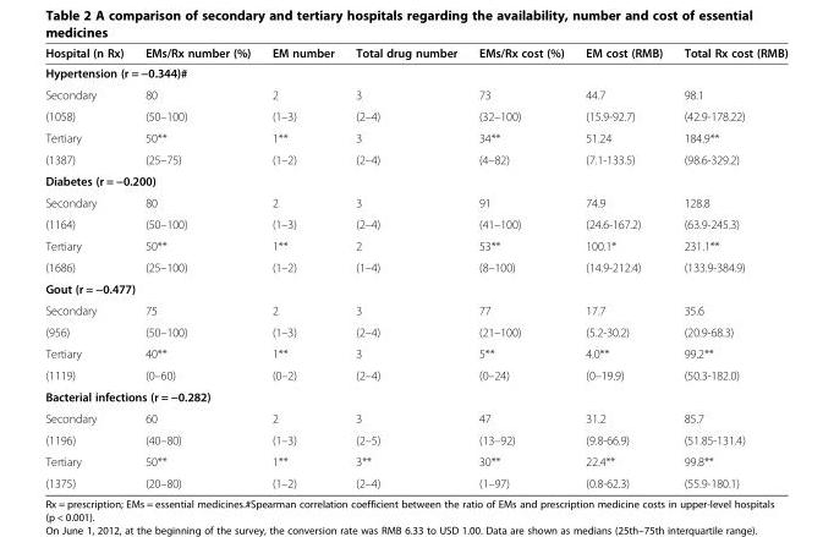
<table><thead><tr><td>Hospital (n Rx)</td><td>EMs/Rx number (%)</td><td>EM number</td><td>Total drug number</td><td>EMs/Rx cost (%)</td><td>EM cost (RMB)</td><td>Total Rx cost (RMB)</td></tr></thead><tbody><tr><td colspan="7">Hypertension (r = −0.344)#</td></tr><tr><td>Secondary</td><td>80</td><td>2</td><td>3</td><td>73</td><td>44.7</td><td>98.1</td></tr><tr><td>(1058)</td><td>(50–100)</td><td>(1–3)</td><td>(2–4)</td><td>(32–100)</td><td>(15.9-92.7)</td><td>(42.9-178.22)</td></tr><tr><td>Tertiary</td><td>50**</td><td>1**</td><td>3</td><td>34**</td><td>51.24</td><td>184.9**</td></tr><tr><td>(1387)</td><td>(25–75)</td><td>(1–2)</td><td>(2–4)</td><td>(4–82)</td><td>(7.1-133.5)</td><td>(98.6-329.2)</td></tr><tr><td colspan="7">Diabetes (r = −0.200)</td></tr><tr><td>Secondary</td><td>80</td><td>2</td><td>3</td><td>91</td><td>74.9</td><td>128.8</td></tr><tr><td>(1164)</td><td>(50–100)</td><td>(1–3)</td><td>(2–4)</td><td>(41–100)</td><td>(24.6-167.2)</td><td>(63.9-245.3)</td></tr><tr><td>Tertiary</td><td>50**</td><td>1**</td><td>2</td><td>53**</td><td>100.1*</td><td>231.1**</td></tr><tr><td>(1686)</td><td>(25–100)</td><td>(1–2)</td><td>(1–4)</td><td>(8–100)</td><td>(14.9-212.4)</td><td>(133.9-384.9)</td></tr><tr><td colspan="7">Gout (r = −0.477)</td></tr><tr><td>Secondary</td><td>75</td><td>2</td><td>3</td><td>77</td><td>17.7</td><td>35.6</td></tr><tr><td>(956)</td><td>(50–100)</td><td>(1–3)</td><td>(2–4)</td><td>(21–100)</td><td>(5.2-30.2)</td><td>(20.9-68.3)</td></tr><tr><td>Tertiary</td><td>40**</td><td>1**</td><td>3</td><td>5**</td><td>4.0**</td><td>99.2**</td></tr><tr><td>(1119)</td><td>(0–60)</td><td>(0–2)</td><td>(2–4)</td><td>(0–24)</td><td>(0–19.9)</td><td>(50.3-182.0)</td></tr><tr><td colspan="7">Bacterial infections (r = −0.282)</td></tr><tr><td>Secondary</td><td>60</td><td>2</td><td>3</td><td>47</td><td>31.2</td><td>85.7</td></tr><tr><td>(1196)</td><td>(40–80)</td><td>(1–3)</td><td>(2–5)</td><td>(13–92)</td><td>(9.8-66.9)</td><td>(51.85-131.4)</td></tr><tr><td>Tertiary</td><td>50**</td><td>1**</td><td>3**</td><td>30**</td><td>22.4**</td><td>99.8**</td></tr><tr><td>(1375)</td><td>(20–80)</td><td>(1–2)</td><td>(2–4)</td><td>(1–97)</td><td>(0.8-62.3)</td><td>(55.9-180.1)</td></tr></tbody></table>